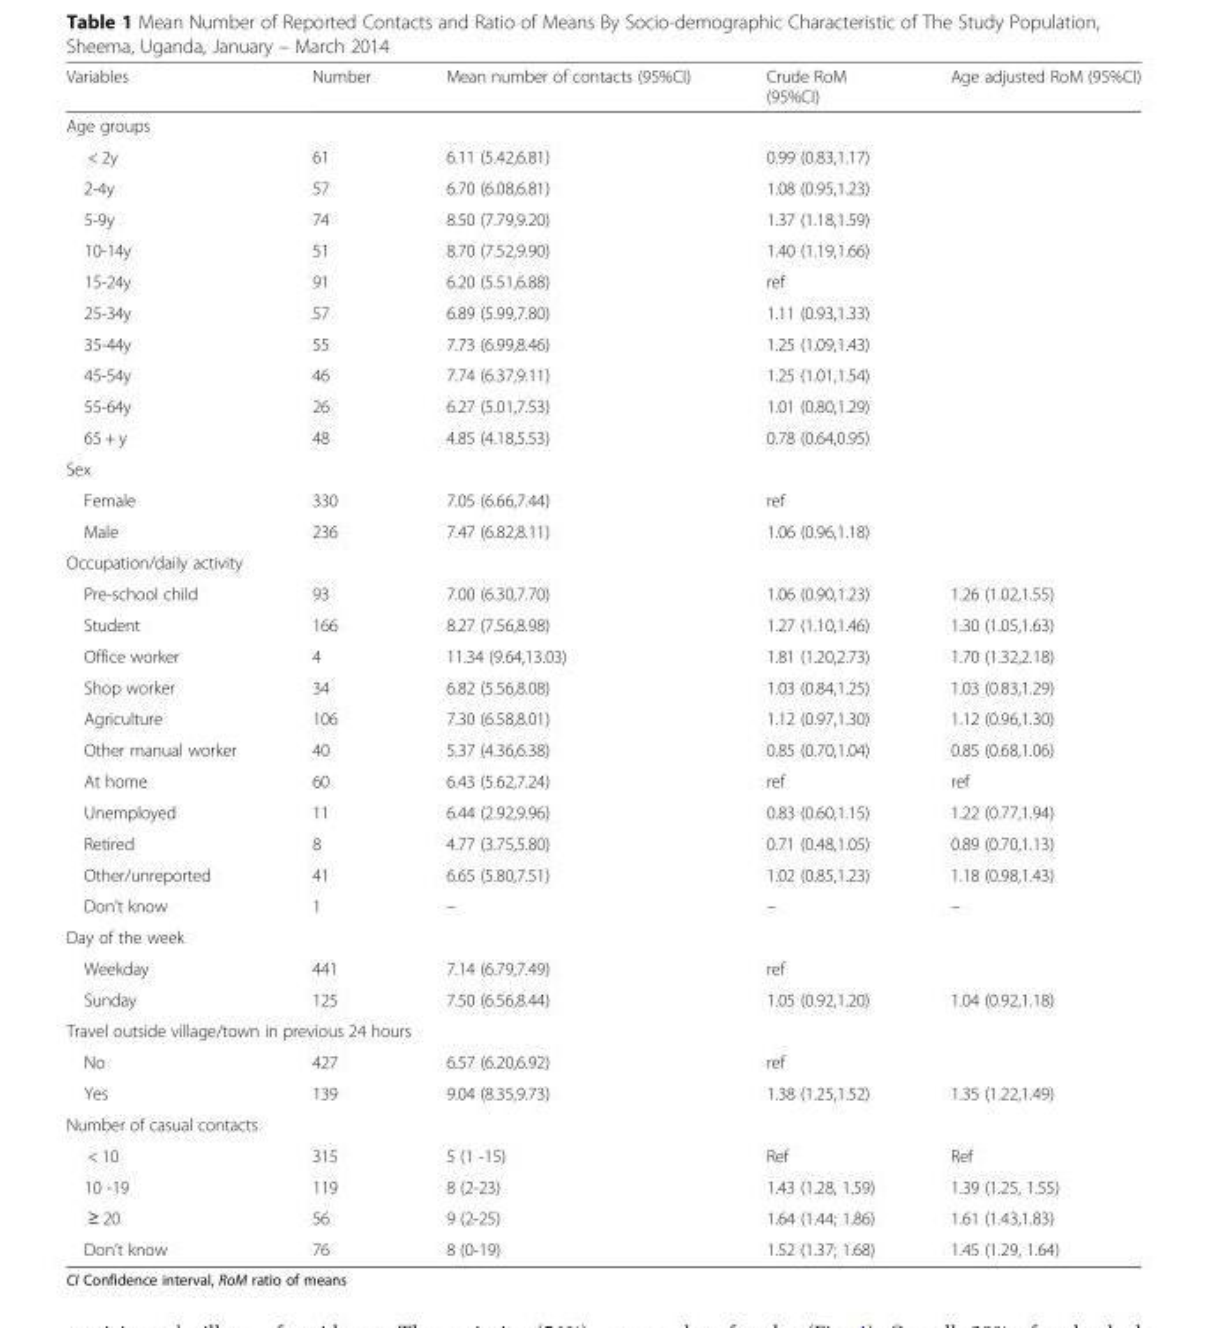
<table><thead><tr><td>Variables</td><td>Number</td><td>Mean number of contacts (95%CI)</td><td>Crude RoM (95%CI)</td><td>Age adjusted RoM (95%CI)</td></tr></thead><tbody><tr><td colspan="5">Age groups</td></tr><tr><td>&lt; 2y</td><td>61</td><td>6.11 (5.42,6.81)</td><td>0.99 (0.83,1.17)</td><td></td></tr><tr><td>2-4y</td><td>57</td><td>6.70 (6.08,6.81)</td><td>1.08 (0.95,1.23)</td><td></td></tr><tr><td>5-9y</td><td>74</td><td>8.50 (7.79,9.20)</td><td>1.37 (1.18,1.59)</td><td></td></tr><tr><td>10-14y</td><td>51</td><td>8.70 (7.52,9.90)</td><td>1.40 (1.19,1.66)</td><td></td></tr><tr><td>15-24y</td><td>91</td><td>6.20 (5.51,6.88)</td><td>ref</td><td></td></tr><tr><td>25-34y</td><td>57</td><td>6.89 (5.99,7.80)</td><td>1.11 (0.93,1.33)</td><td></td></tr><tr><td>35-44y</td><td>55</td><td>7.73 (6.99,8.46)</td><td>1.25 (1.09,1.43)</td><td></td></tr><tr><td>45-54y</td><td>46</td><td>7.74 (6.37,9.11)</td><td>1.25 (1.01,1.54)</td><td></td></tr><tr><td>55-64y</td><td>26</td><td>6.27 (5.01,7.53)</td><td>1.01 (0.80,1.29)</td><td></td></tr><tr><td>65 + y</td><td>48</td><td>4.85 (4.18,5.53)</td><td>0.78 (0.64,0.95)</td><td></td></tr><tr><td colspan="5">Sex</td></tr><tr><td>Female</td><td>330</td><td>7.05 (6.66,7.44)</td><td>ref</td><td></td></tr><tr><td>Male</td><td>236</td><td>7.47 (6.82,8.11)</td><td>1.06 (0.96,1.18)</td><td></td></tr><tr><td colspan="5">Occupation/daily activity</td></tr><tr><td>Pre-school child</td><td>93</td><td>7.00 (6.30,7.70)</td><td>1.06 (0.90,1.23)</td><td>1.26 (1.02,1.55)</td></tr><tr><td>Student</td><td>166</td><td>8.27 (7.56,8.98)</td><td>1.27 (1.10,1.46)</td><td>1.30 (1.05,1.63)</td></tr><tr><td>Office worker</td><td>4</td><td>11.34 (9.64,13.03)</td><td>1.81 (1.20,2.73)</td><td>1.70 (1.32,2.18)</td></tr><tr><td>Shop worker</td><td>34</td><td>6.82 (5.56,8.08)</td><td>1.03 (0.84,1.25)</td><td>1.03 (0.83,1.29)</td></tr><tr><td>Agriculture</td><td>106</td><td>7.30 (6.58,8.01)</td><td>1.12 (0.97,1.30)</td><td>1.12 (0.96,1.30)</td></tr><tr><td>Other manual worker</td><td>40</td><td>5.37 (4.36,6.38)</td><td>0.85 (0.70,1.04)</td><td>0.85 (0.68,1.06)</td></tr><tr><td>At home</td><td>60</td><td>6.43 (5.62,7.24)</td><td>ref</td><td>ref</td></tr><tr><td>Unemployed</td><td>11</td><td>6.44 (2.92,9.96)</td><td>0.83 (0.60,1.15)</td><td>1.22 (0.77,1.94)</td></tr><tr><td>Retired</td><td>8</td><td>4.77 (3.75,5.80)</td><td>0.71 (0.48,1.05)</td><td>0.89 (0.70,1.13)</td></tr><tr><td>Other/unreported</td><td>41</td><td>6.65 (5.80,7.51)</td><td>1.02 (0.85,1.23)</td><td>1.18 (0.98,1.43)</td></tr><tr><td>Don’t know</td><td>1</td><td>–</td><td>–</td><td>–</td></tr><tr><td colspan="5">Day of the week</td></tr><tr><td>Weekday</td><td>441</td><td>7.14 (6.79,7.49)</td><td>ref</td><td></td></tr><tr><td>Sunday</td><td>125</td><td>7.50 (6.56,8.44)</td><td>1.05 (0.92,1.20)</td><td>1.04 (0.92,1.18)</td></tr><tr><td colspan="5">Travel outside village/town in previous 24 hours</td></tr><tr><td>No</td><td>427</td><td>6.57 (6.20,6.92)</td><td>ref</td><td></td></tr><tr><td>Yes</td><td>139</td><td>9.04 (8.35,9.73)</td><td>1.38 (1.25,1.52)</td><td>1.35 (1.22,1.49)</td></tr><tr><td colspan="5">Number of casual contacts</td></tr><tr><td>&lt; 10</td><td>315</td><td>5 (1 -15)</td><td>Ref</td><td>Ref</td></tr><tr><td>10 -19</td><td>119</td><td>8 (2-23)</td><td>1.43 (1.28, 1.59)</td><td>1.39 (1.25, 1.55)</td></tr><tr><td>≥ 20</td><td>56</td><td>9 (2-25)</td><td>1.64 (1.44; 1.86)</td><td>1.61 (1.43,1.83)</td></tr><tr><td>Don’t know</td><td>76</td><td>8 (0-19)</td><td>1.52 (1.37; 1.68)</td><td>1.45 (1.29, 1.64)</td></tr></tbody></table>